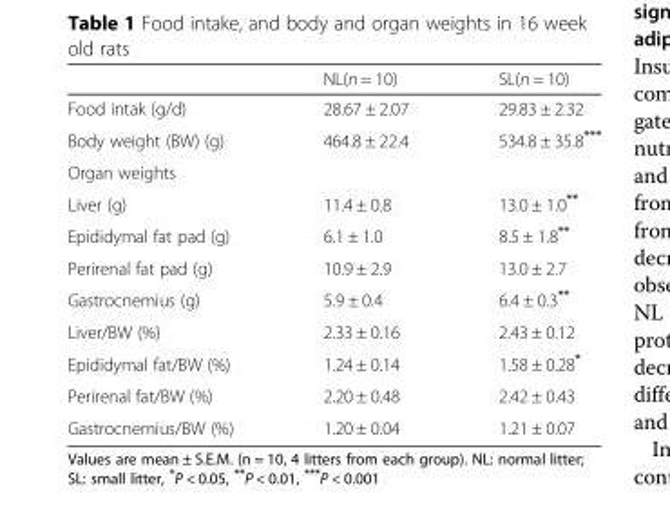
<table><thead><tr><td></td><td>NL(n = 10)</td><td>SL(n = 10)</td></tr></thead><tbody><tr><td>Food intak (g/d)</td><td>28.67 ± 2.07</td><td>29.83 ± 2.32</td></tr><tr><td>Body weight (BW) (g)</td><td>464.8 ± 22.4</td><td>534.8 ± 35.8***</td></tr><tr><td colspan="3">Organ weights</td></tr><tr><td>Liver (g)</td><td>11.4 ± 0.8</td><td>13.0 ± 1.0**</td></tr><tr><td>Epididymal fat pad (g)</td><td>6.1 ± 1.0</td><td>8.5 ± 1.8**</td></tr><tr><td>Perirenal fat pad (g)</td><td>10.9 ± 2.9</td><td>13.0 ± 2.7</td></tr><tr><td>Gastrocnemius (g)</td><td>5.9 ± 0.4</td><td>6.4 ± 0.3**</td></tr><tr><td>Liver/BW (%)</td><td>2.33 ± 0.16</td><td>2.43 ± 0.12</td></tr><tr><td>Epididymal fat/BW (%)</td><td>1.24 ± 0.14</td><td>1.58 ± 0.28*</td></tr><tr><td>Perirenal fat/BW (%)</td><td>2.20 ± 0.48</td><td>2.42 ± 0.43</td></tr><tr><td>Gastrocnemius/BW (%)</td><td>1.20 ± 0.04</td><td>1.21 ± 0.07</td></tr></tbody></table>